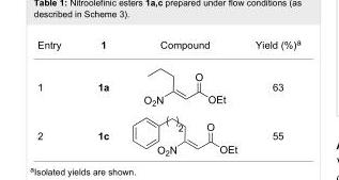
<table><tbody><tr><td>Entry</td><td>1</td><td>Compound</td><td>Yield (%)<sup>a</sup></td></tr><tr><td>1</td><td>1a</td><td></td><td>63</td></tr><tr><td>2</td><td>1c</td><td></td><td>55</td></tr></tbody></table>